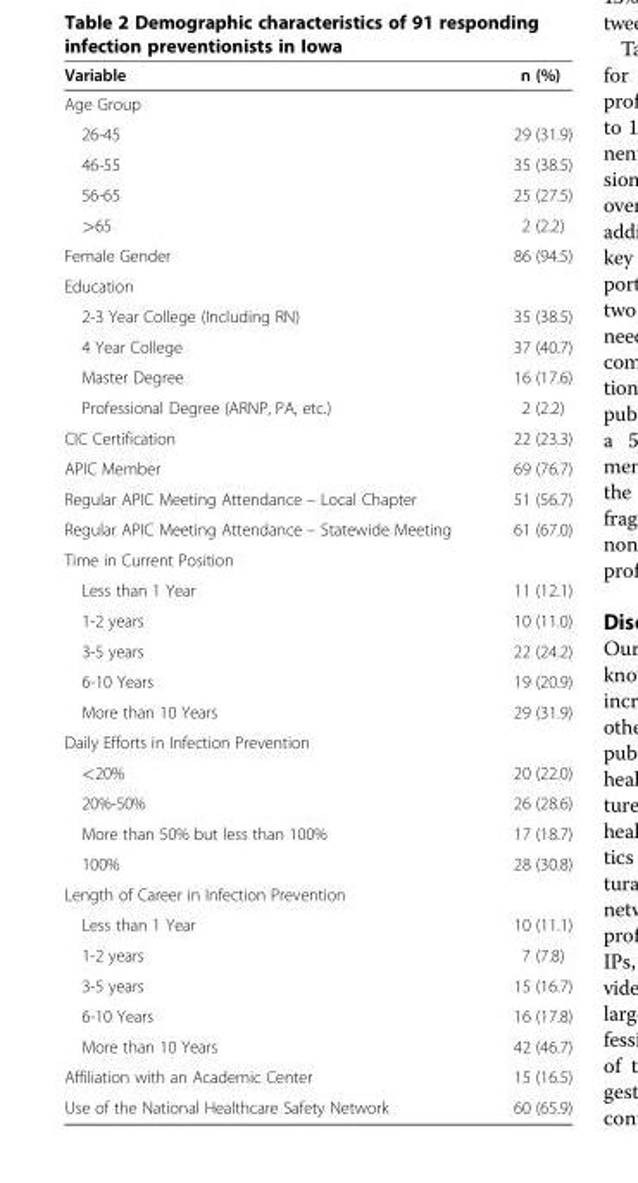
<table><thead><tr><td>Variable</td><td>n (%)</td></tr></thead><tbody><tr><td colspan="2">Age Group</td></tr><tr><td>26-45</td><td>29 (31.9)</td></tr><tr><td>46-55</td><td>35 (38.5)</td></tr><tr><td>56-65</td><td>25 (27.5)</td></tr><tr><td>&gt;65</td><td>2 (2.2)</td></tr><tr><td>Female Gender</td><td>86 (94.5)</td></tr><tr><td colspan="2">Education</td></tr><tr><td>2-3 Year College (Including RN)</td><td>35 (38.5)</td></tr><tr><td>4 Year College</td><td>37 (40.7)</td></tr><tr><td>Master Degree</td><td>16 (17.6)</td></tr><tr><td>Professional Degree (ARNP, PA, etc.)</td><td>2 (2.2)</td></tr><tr><td>CIC Certification</td><td>22 (23.3)</td></tr><tr><td>APIC Member</td><td>69 (76.7)</td></tr><tr><td>Regular APIC Meeting Attendance – Local Chapter</td><td>51 (56.7)</td></tr><tr><td>Regular APIC Meeting Attendance – Statewide Meeting</td><td>61 (67.0)</td></tr><tr><td colspan="2">Time in Current Position</td></tr><tr><td>Less than 1 Year</td><td>11 (12.1)</td></tr><tr><td>1-2 years</td><td>10 (11.0)</td></tr><tr><td>3-5 years</td><td>22 (24.2)</td></tr><tr><td>6-10 Years</td><td>19 (20.9)</td></tr><tr><td>More than 10 Years</td><td>29 (31.9)</td></tr><tr><td colspan="2">Daily Efforts in Infection Prevention</td></tr><tr><td>&lt;20%</td><td>20 (22.0)</td></tr><tr><td>20%-50%</td><td>26 (28.6)</td></tr><tr><td>More than 50% but less than 100%</td><td>17 (18.7)</td></tr><tr><td>100%</td><td>28 (30.8)</td></tr><tr><td colspan="2">Length of Career in Infection Prevention</td></tr><tr><td>Less than 1 Year</td><td>10 (11.1)</td></tr><tr><td>1-2 years</td><td>7 (7.8)</td></tr><tr><td>3-5 years</td><td>15 (16.7)</td></tr><tr><td>6-10 Years</td><td>16 (17.8)</td></tr><tr><td>More than 10 Years</td><td>42 (46.7)</td></tr><tr><td>Affiliation with an Academic Center</td><td>15 (16.5)</td></tr><tr><td>Use of the National Healthcare Safety Network</td><td>60 (65.9)</td></tr></tbody></table>